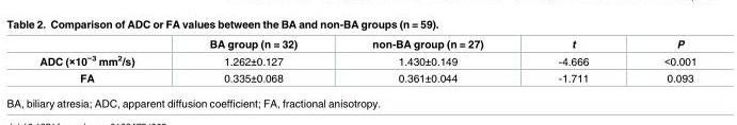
<table><thead><tr><td></td><td>BA group (n = 32)</td><td>non-BA group (n = 27)</td><td>t</td><td>P</td></tr></thead><tbody><tr><td>ADC (×10<sup>−3</sup> mm<sup>2</sup>/s)</td><td>1.262±0.127</td><td>1.430±0.149</td><td>-4.666</td><td>&lt;0.001</td></tr><tr><td>FA</td><td>0.335±0.068</td><td>0.361±0.044</td><td>-1.711</td><td>0.093</td></tr></tbody></table>